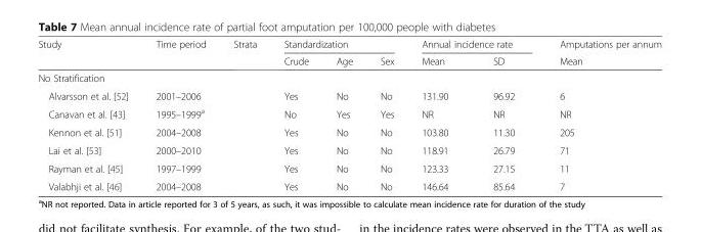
<table><thead><tr><td rowspan="2">Study</td><td rowspan="2">Time period</td><td rowspan="2">Strata</td><td colspan="3">Standardization</td><td colspan="2">Annual incidence rate</td><td rowspan="2">Amputations per annum Mean</td></tr><tr><td>Crude</td><td>Age</td><td>Sex</td><td>Mean</td><td>SD</td></tr></thead><tbody><tr><td colspan="9">No Stratification</td></tr><tr><td>Alvarsson et al. [52]</td><td>2001–2006</td><td></td><td>Yes</td><td>No</td><td>No</td><td>131.90</td><td>96.92</td><td>6</td></tr><tr><td>Canavan et al. [43]</td><td>1995–1999<sup>a</sup></td><td></td><td>No</td><td>Yes</td><td>Yes</td><td>NR</td><td>NR</td><td>NR</td></tr><tr><td>Kennon et al. [51]</td><td>2004–2008</td><td></td><td>Yes</td><td>No</td><td>No</td><td>103.80</td><td>11.30</td><td>205</td></tr><tr><td>Lai et al. [53]</td><td>2000–2010</td><td></td><td>Yes</td><td>No</td><td>No</td><td>118.91</td><td>26.79</td><td>71</td></tr><tr><td>Rayman et al. [45]</td><td>1997–1999</td><td></td><td>Yes</td><td>No</td><td>No</td><td>123.33</td><td>27.15</td><td>11</td></tr><tr><td>Valabhji et al. [46]</td><td>2004–2008</td><td></td><td>Yes</td><td>No</td><td>No</td><td>146.64</td><td>85.64</td><td>7</td></tr></tbody></table>